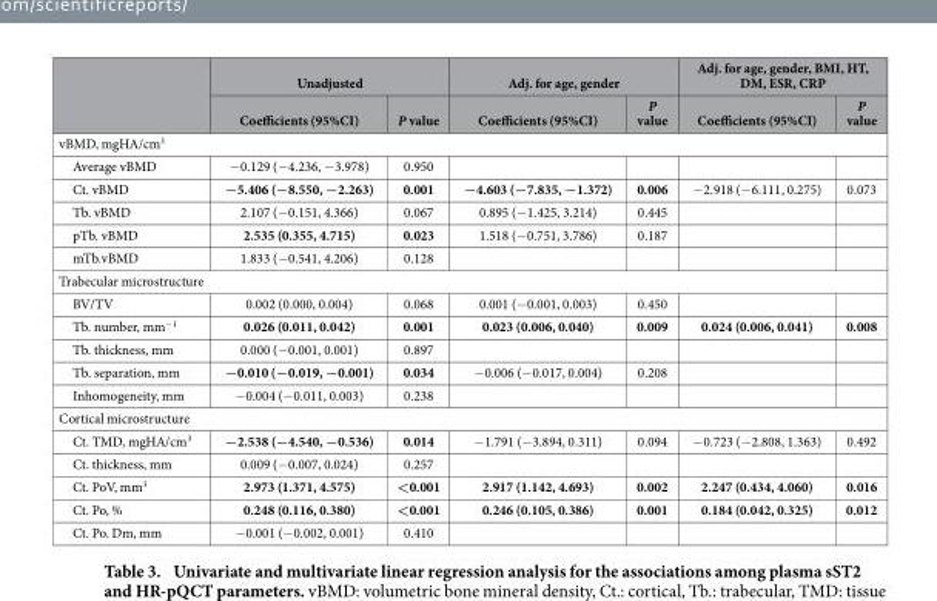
<table><thead><tr><td rowspan="2"></td><td colspan="2">Unadjusted</td><td colspan="2">Adj. for age, gender</td><td colspan="2">Adj. for age, gender, BMI, HT, DM, ESR, CRP</td></tr><tr><td>Coefficients (95%CI)</td><td>P value</td><td>Coefficients (95%CI)</td><td>P value</td><td>Coefficients (95%CI)</td><td>P value</td></tr></thead><tbody><tr><td colspan="7">vBMD, mgHA/cm<sup>3</sup></td></tr><tr><td>Average vBMD</td><td>− 0.129 (− 4.236, − 3.978)</td><td>0.950</td><td></td><td></td><td></td><td></td></tr><tr><td>Ct. vBMD</td><td>−5.406 (−8.550, −2.263)</td><td>0.001</td><td>−4.603 (−7.835, −1.372)</td><td>0.006</td><td>− 2.918 (− 6.111, 0.275)</td><td>0.073</td></tr><tr><td>Tb. vBMD</td><td>2.107 (− 0.151, 4.366)</td><td>0.067</td><td>0.895 (− 1.425, 3.214)</td><td>0.445</td><td></td><td></td></tr><tr><td>pTb. vBMD</td><td>2.535 (0.355, 4.715)</td><td>0.023</td><td>1.518 (− 0.751, 3.786)</td><td>0.187</td><td></td><td></td></tr><tr><td>mTb.vBMD</td><td>1.833 (− 0.541, 4.206)</td><td>0.128</td><td></td><td></td><td></td><td></td></tr><tr><td colspan="7">Trabecular microstructure</td></tr><tr><td>BV/TV</td><td>0.002 (0.000, 0.004)</td><td>0.068</td><td>0.001 (− 0.001, 0.003)</td><td>0.450</td><td></td><td></td></tr><tr><td>Tb. number, mm<sup>−1</sup></td><td>0.026 (0.011, 0.042)</td><td>0.001</td><td>0.023 (0.006, 0.040)</td><td>0.009</td><td>0.024 (0.006, 0.041)</td><td>0.008</td></tr><tr><td>Tb. thickness, mm</td><td>0.000 (− 0.001, 0.001)</td><td>0.897</td><td></td><td></td><td></td><td></td></tr><tr><td>Tb. separation, mm</td><td>−0.010 (−0.019, −0.001)</td><td>0.034</td><td>− 0.006 (− 0.017, 0.004)</td><td>0.208</td><td></td><td></td></tr><tr><td>Inhomogeneity, mm</td><td>− 0.004 (− 0.011, 0.003)</td><td>0.238</td><td></td><td></td><td></td><td></td></tr><tr><td colspan="7">Cortical microstructure</td></tr><tr><td>Ct. TMD, mgHA/cm<sup>3</sup></td><td>−2.538 (−4.540, −0.536)</td><td>0.014</td><td>− 1.791 (− 3.894, 0.311)</td><td>0.094</td><td>− 0.723 (− 2.808, 1.363)</td><td>0.492</td></tr><tr><td>Ct. thickness, mm</td><td>0.009 (− 0.007, 0.024)</td><td>0.257</td><td></td><td></td><td></td><td></td></tr><tr><td>Ct. PoV, mm<sup>3</sup></td><td>2.973 (1.371, 4.575)</td><td>&lt;0.001</td><td>2.917 (1.142, 4.693)</td><td>0.002</td><td>2.247 (0.434, 4.060)</td><td>0.016</td></tr><tr><td>Ct. Po, %</td><td>0.248 (0.116, 0.380)</td><td>&lt;0.001</td><td>0.246 (0.105, 0.386)</td><td>0.001</td><td>0.184 (0.042, 0.325)</td><td>0.012</td></tr><tr><td>Ct. Po. Dm, mm</td><td>− 0.001 (− 0.002, 0.001)</td><td>0.410</td><td></td><td></td><td></td><td></td></tr></tbody></table>